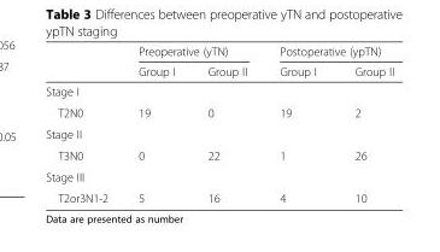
<table><thead><tr><td rowspan="2"></td><td colspan="2">Preoperative (yTN)</td><td colspan="2">Postoperative (ypTN)</td></tr><tr><td>Group I</td><td>Group II</td><td>Group I</td><td>Group II</td></tr></thead><tbody><tr><td colspan="5">Stage I</td></tr><tr><td>T2N0</td><td>19</td><td>0</td><td>19</td><td>2</td></tr><tr><td colspan="5">Stage II</td></tr><tr><td>T3N0</td><td>0</td><td>22</td><td>1</td><td>26</td></tr><tr><td colspan="5">Stage III</td></tr><tr><td>T2or3N1-2</td><td>5</td><td>16</td><td>4</td><td>10</td></tr></tbody></table>